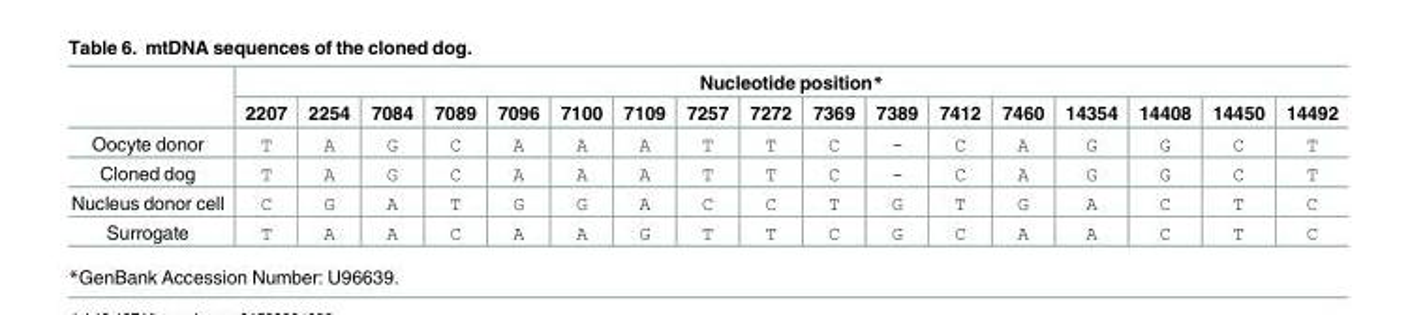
<table><thead><tr><td rowspan="2"></td><td colspan="17">Nucleotide position*</td></tr><tr><td>2207</td><td>2254</td><td>7084</td><td>7089</td><td>7096</td><td>7100</td><td>7109</td><td>7257</td><td>7272</td><td>7369</td><td>7389</td><td>7412</td><td>7460</td><td>14354</td><td>14408</td><td>14450</td><td>14492</td></tr></thead><tbody><tr><td>Oocyte donor</td><td>T</td><td>A</td><td>G</td><td>C</td><td>A</td><td>A</td><td>A</td><td>T</td><td>T</td><td>C</td><td>-</td><td>C</td><td>A</td><td>G</td><td>G</td><td>C</td><td>T</td></tr><tr><td>Cloned dog</td><td>T</td><td>A</td><td>G</td><td>C</td><td>A</td><td>A</td><td>A</td><td>T</td><td>T</td><td>C</td><td>-</td><td>C</td><td>A</td><td>G</td><td>G</td><td>C</td><td>T</td></tr><tr><td>Nucleus donor cell</td><td>C</td><td>G</td><td>A</td><td>T</td><td>G</td><td>G</td><td>A</td><td>C</td><td>C</td><td>T</td><td>G</td><td>T</td><td>G</td><td>A</td><td>C</td><td>T</td><td>C</td></tr><tr><td>Surrogate</td><td>T</td><td>A</td><td>A</td><td>C</td><td>A</td><td>A</td><td>G</td><td>T</td><td>T</td><td>C</td><td>G</td><td>C</td><td>A</td><td>A</td><td>C</td><td>T</td><td>C</td></tr></tbody></table>